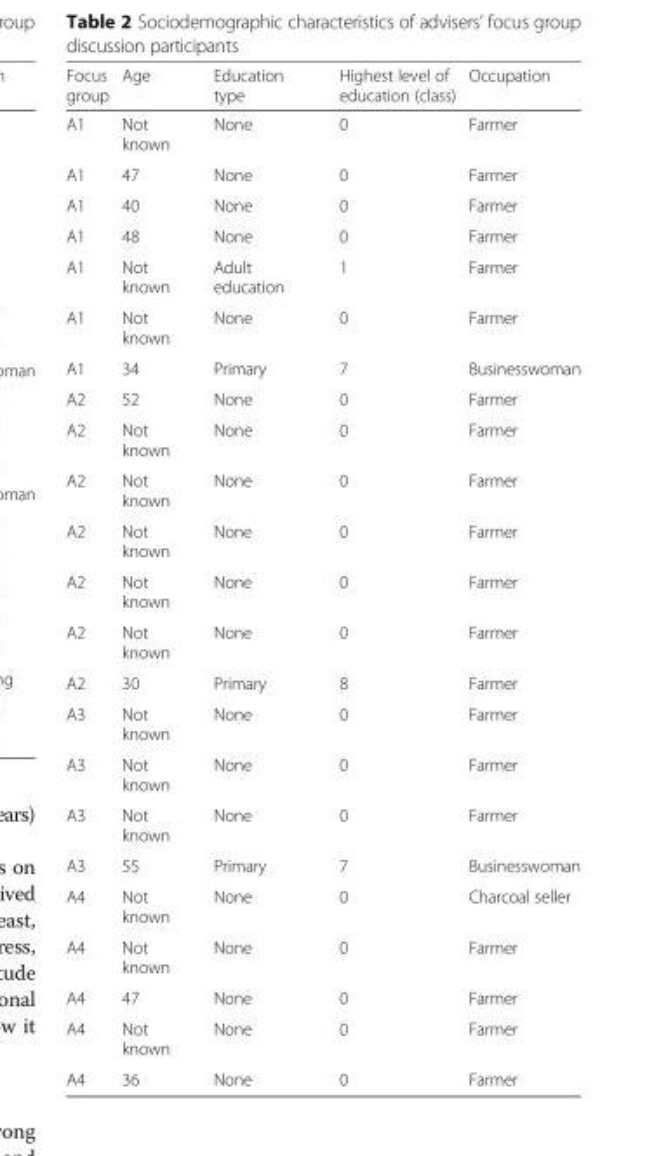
<table><thead><tr><td>Focus group</td><td>Age</td><td>Education type</td><td>Highest level of education (class)</td><td>Occupation</td></tr></thead><tbody><tr><td>A1</td><td>Not known</td><td>None</td><td>0</td><td>Farmer</td></tr><tr><td>A1</td><td>47</td><td>None</td><td>0</td><td>Farmer</td></tr><tr><td>A1</td><td>40</td><td>None</td><td>0</td><td>Farmer</td></tr><tr><td>A1</td><td>48</td><td>None</td><td>0</td><td>Farmer</td></tr><tr><td>A1</td><td>Not known</td><td>Adult education</td><td>1</td><td>Farmer</td></tr><tr><td>A1</td><td>Not known</td><td>None</td><td>0</td><td>Farmer</td></tr><tr><td>A1</td><td>34</td><td>Primary</td><td>7</td><td>Businesswoman</td></tr><tr><td>A2</td><td>52</td><td>None</td><td>0</td><td>Farmer</td></tr><tr><td>A2</td><td>Not known</td><td>None</td><td>0</td><td>Farmer</td></tr><tr><td>A2</td><td>Not known</td><td>None</td><td>0</td><td>Farmer</td></tr><tr><td>A2</td><td>Not known</td><td>None</td><td>0</td><td>Farmer</td></tr><tr><td>A2</td><td>Not known</td><td>None</td><td>0</td><td>Farmer</td></tr><tr><td>A2</td><td>Not known</td><td>None</td><td>0</td><td>Farmer</td></tr><tr><td>A2</td><td>30</td><td>Primary</td><td>8</td><td>Farmer</td></tr><tr><td>A3</td><td>Not known</td><td>None</td><td>0</td><td>Farmer</td></tr><tr><td>A3</td><td>Not known</td><td>None</td><td>0</td><td>Farmer</td></tr><tr><td>A3</td><td>Not known</td><td>None</td><td>0</td><td>Farmer</td></tr><tr><td>A3</td><td>55</td><td>Primary</td><td>7</td><td>Businesswoman</td></tr><tr><td>A4</td><td>Not known</td><td>None</td><td>0</td><td>Charcoal seller</td></tr><tr><td>A4</td><td>Not known</td><td>None</td><td>0</td><td>Farmer</td></tr><tr><td>A4</td><td>47</td><td>None</td><td>0</td><td>Farmer</td></tr><tr><td>A4</td><td>Not known</td><td>None</td><td>0</td><td>Farmer</td></tr><tr><td>A4</td><td>36</td><td>None</td><td>0</td><td>Farmer</td></tr></tbody></table>